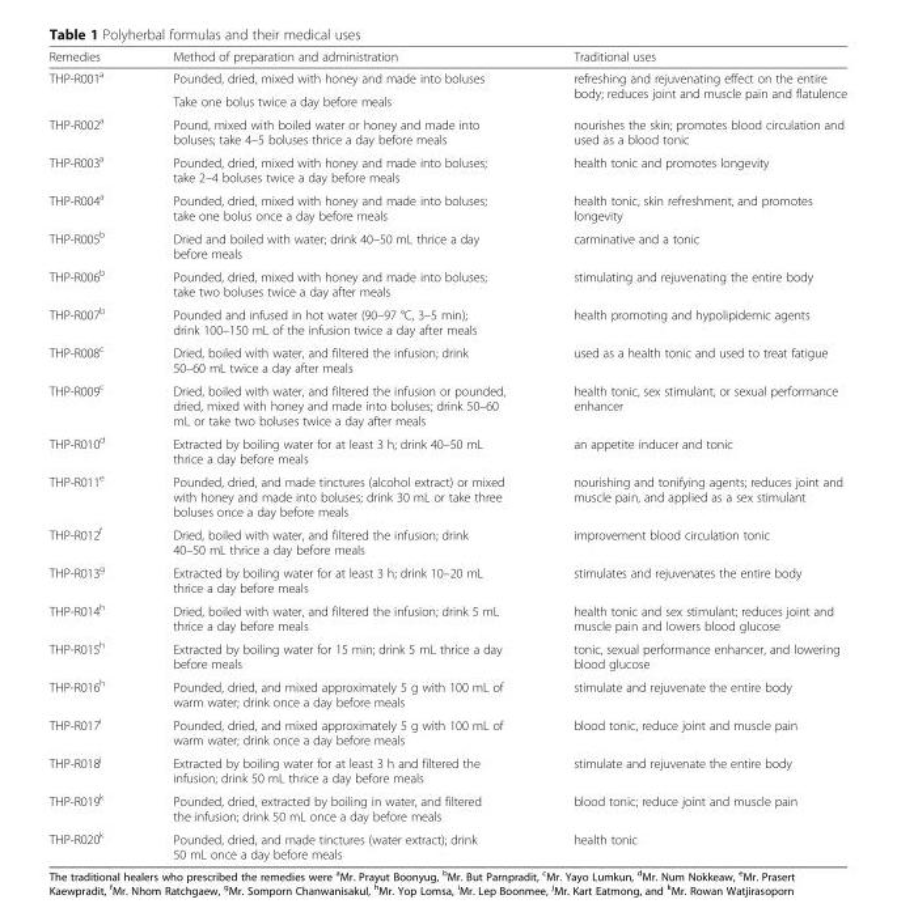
<table><thead><tr><td>Remedies</td><td>Method of preparation and administration</td><td>Traditional uses</td></tr></thead><tbody><tr><td rowspan="2">THP-R001<sup>a</sup></td><td>Pounded, dried, mixed with honey and made into boluses</td><td rowspan="2">refreshing and rejuvenating effect on the entire body; reduces joint and muscle pain and flatulence</td></tr><tr><td>Take one bolus twice a day before meals</td></tr><tr><td>THP-R002<sup>a</sup></td><td>Pound, mixed with boiled water or honey and made into boluses; take 4–5 boluses thrice a day before meals</td><td>nourishes the skin; promotes blood circulation and used as a blood tonic</td></tr><tr><td>THP-R003<sup>a</sup></td><td>Pounded, dried, mixed with honey and made into boluses; take 2–4 boluses twice a day before meals</td><td>health tonic and promotes longevity</td></tr><tr><td>THP-R004<sup>a</sup></td><td>Pounded, dried, mixed with honey and made into boluses; take one bolus once a day before meals</td><td>health tonic, skin refreshment, and promotes longevity</td></tr><tr><td>THP-R005<sup>b</sup></td><td>Dried and boiled with water; drink 40–50 mL thrice a day before meals</td><td>carminative and a tonic</td></tr><tr><td>THP-R006<sup>b</sup></td><td>Pounded, dried, mixed with honey and made into boluses; take two boluses twice a day after meals</td><td>stimulating and rejuvenating the entire body</td></tr><tr><td>THP-R007<sup>b</sup></td><td>Pounded and infused in hot water (90–97 °C, 3–5 min); drink 100–150 mL of the infusion twice a day after meals</td><td>health promoting and hypolipidemic agents</td></tr><tr><td>THP-R008<sup>c</sup></td><td>Dried, boiled with water, and filtered the infusion; drink 50–60 mL twice a day after meals</td><td>used as a health tonic and used to treat fatigue</td></tr><tr><td>THP-R009<sup>c</sup></td><td>Dried, boiled with water, and filtered the infusion or pounded, dried, mixed with honey and made into boluses; drink 50–60 mL or take two boluses twice a day after meals</td><td>health tonic, sex stimulant, or sexual performance enhancer</td></tr><tr><td>THP-R010<sup>d</sup></td><td>Extracted by boiling water for at least 3 h; drink 40–50 mL thrice a day before meals</td><td>an appetite inducer and tonic</td></tr><tr><td>THP-R011<sup>e</sup></td><td>Pounded, dried, and made tinctures (alcohol extract) or mixed with honey and made into boluses; drink 30 mL or take three boluses once a day before meals</td><td>nourishing and tonifying agents; reduces joint and muscle pain, and applied as a sex stimulant</td></tr><tr><td>THP-R012<sup>f</sup></td><td>Dried, boiled with water, and filtered the infusion; drink 40–50 mL thrice a day before meals</td><td>improvement blood circulation tonic</td></tr><tr><td>THP-R013<sup>g</sup></td><td>Extracted by boiling water for at least 3 h; drink 10–20 mL thrice a day before meals</td><td>stimulates and rejuvenates the entire body</td></tr><tr><td>THP-R014<sup>h</sup></td><td>Dried, boiled with water, and filtered the infusion; drink 5 mL thrice a day before meals</td><td>health tonic and sex stimulant; reduces joint and muscle pain and lowers blood glucose</td></tr><tr><td>THP-R015<sup>h</sup></td><td>Extracted by boiling water for 15 min; drink 5 mL thrice a day before meals</td><td>tonic, sexual performance enhancer, and lowering blood glucose</td></tr><tr><td>THP-R016<sup>h</sup></td><td>Pounded, dried, and mixed approximately 5 g with 100 mL of warm water; drink once a day before meals</td><td>stimulate and rejuvenate the entire body</td></tr><tr><td>THP-R017<sup>i</sup></td><td>Pounded, dried, and mixed approximately 5 g with 100 mL of warm water; drink once a day before meals</td><td>blood tonic, reduce joint and muscle pain</td></tr><tr><td>THP-R018<sup>j</sup></td><td>Extracted by boiling water for at least 3 h and filtered the infusion; drink 50 mL thrice a day before meals</td><td>stimulate and rejuvenate the entire body</td></tr><tr><td>THP-R019<sup>k</sup></td><td>Pounded, dried, extracted by boiling in water, and filtered the infusion; drink 50 mL once a day before meals</td><td>blood tonic; reduce joint and muscle pain</td></tr><tr><td>THP-R020<sup>k</sup></td><td>Pounded, dried, and made tinctures (water extract); drink 50 mL once a day before meals</td><td>health tonic</td></tr></tbody></table>